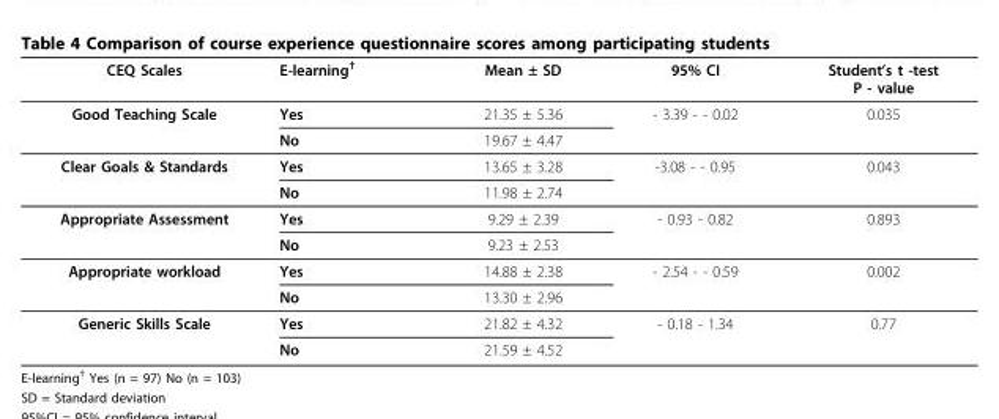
<table><thead><tr><td>CEQ Scales</td><td>E-learning<sup>†</sup></td><td>Mean ± SD</td><td>95% CI</td><td>Student’s t -test P - value</td></tr></thead><tbody><tr><td rowspan="2">Good Teaching Scale</td><td>Yes</td><td>21.35 ± 5.36</td><td>- 3.39 - - 0.02</td><td>0.035</td></tr><tr><td>No</td><td>19.67 ± 4.47</td><td></td><td></td></tr><tr><td rowspan="2">Clear Goals &amp; Standards</td><td>Yes</td><td>13.65 ± 3.28</td><td>-3.08 - - 0.95</td><td>0.043</td></tr><tr><td>No</td><td>11.98 ± 2.74</td><td></td><td></td></tr><tr><td rowspan="2">Appropriate Assessment</td><td>Yes</td><td>9.29 ± 2.39</td><td>- 0.93 - 0.82</td><td>0.893</td></tr><tr><td>No</td><td>9.23 ± 2.53</td><td></td><td></td></tr><tr><td rowspan="2">Appropriate workload</td><td>Yes</td><td>14.88 ± 2.38</td><td>- 2.54 - - 0.59</td><td>0.002</td></tr><tr><td>No</td><td>13.30 ± 2.96</td><td></td><td></td></tr><tr><td rowspan="2">Generic Skills Scale</td><td>Yes</td><td>21.82 ± 4.32</td><td>- 0.18 - 1.34</td><td>0.77</td></tr><tr><td>No</td><td>21.59 ± 4.52</td><td></td><td></td></tr></tbody></table>